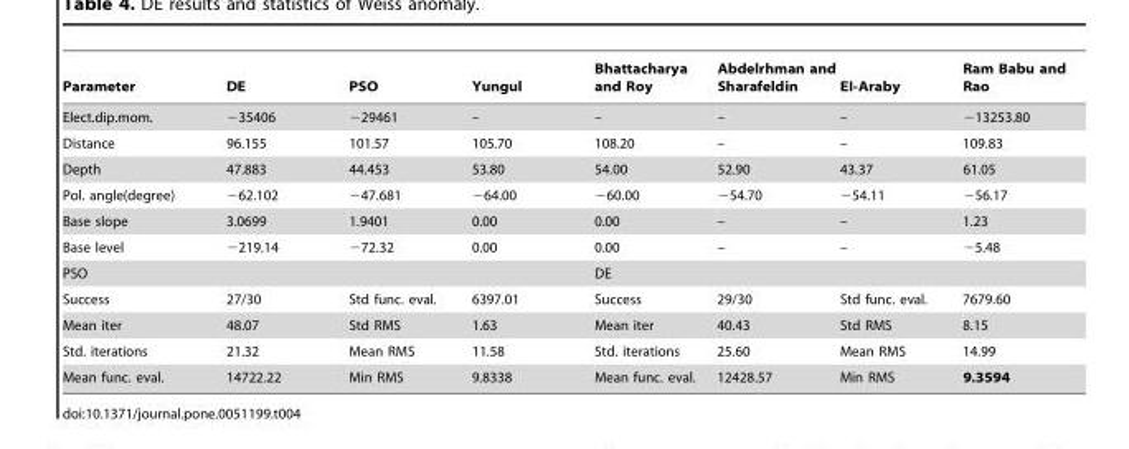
<table><thead><tr><td>Parameter</td><td>DE</td><td>PSO</td><td>Yungul</td><td>Bhattacharya and Roy</td><td>Abdelrhman and Sharafeldin</td><td>EI-Araby</td><td>Ram Babu and Rao</td></tr></thead><tbody><tr><td>Elect.dip.mom.</td><td>−35406</td><td>−29461</td><td>–</td><td>–</td><td>–</td><td>–</td><td>−13253.80</td></tr><tr><td>Distance</td><td>96.155</td><td>101.57</td><td>105.70</td><td>108.20</td><td>–</td><td>–</td><td>109.83</td></tr><tr><td>Depth</td><td>47.883</td><td>44.453</td><td>53.80</td><td>54.00</td><td>52.90</td><td>43.37</td><td>61.05</td></tr><tr><td>Pol. angle(degree)</td><td>−62.102</td><td>−47.681</td><td>−64.00</td><td>−60.00</td><td>−54.70</td><td>−54.11</td><td>−56.17</td></tr><tr><td>Base slope</td><td>3.0699</td><td>1.9401</td><td>0.00</td><td>0.00</td><td>–</td><td>–</td><td>1.23</td></tr><tr><td>Base level</td><td>−219.14</td><td>−72.32</td><td>0.00</td><td>0.00</td><td>–</td><td>–</td><td>−5.48</td></tr><tr><td colspan="4">PSO</td><td colspan="4">DE</td></tr><tr><td>Success</td><td>27/30</td><td>Std func. eval.</td><td>6397.01</td><td>Success</td><td>29/30</td><td>Std func. eval.</td><td>7679.60</td></tr><tr><td>Mean iter</td><td>48.07</td><td>Std RMS</td><td>1.63</td><td>Mean iter</td><td>40.43</td><td>Std RMS</td><td>8.15</td></tr><tr><td>Std. iterations</td><td>21.32</td><td>Mean RMS</td><td>11.58</td><td>Std. iterations</td><td>25.60</td><td>Mean RMS</td><td>14.99</td></tr><tr><td>Mean func. eval.</td><td>14722.22</td><td>Min RMS</td><td>9.8338</td><td>Mean func. eval.</td><td>12428.57</td><td>Min RMS</td><td>9.3594</td></tr></tbody></table>